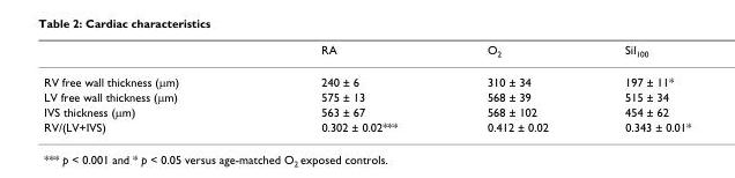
<table><thead><tr><td></td><td>RA</td><td>O<sub>2</sub></td><td>Sil<sub>100</sub></td></tr></thead><tbody><tr><td>RV free wall thickness (μm)</td><td>240 ± 6</td><td>310 ± 34</td><td>197 ± 11*</td></tr><tr><td>LV free wall thickness (μm)</td><td>575 ± 13</td><td>568 ± 39</td><td>515 ± 34</td></tr><tr><td>IVS thickness (μm)</td><td>563 ± 67</td><td>568 ± 102</td><td>454 ± 62</td></tr><tr><td>RV/(LV+IVS)</td><td>0.302 ± 0.02***</td><td>0.412 ± 0.02</td><td>0.343 ± 0.01*</td></tr></tbody></table>